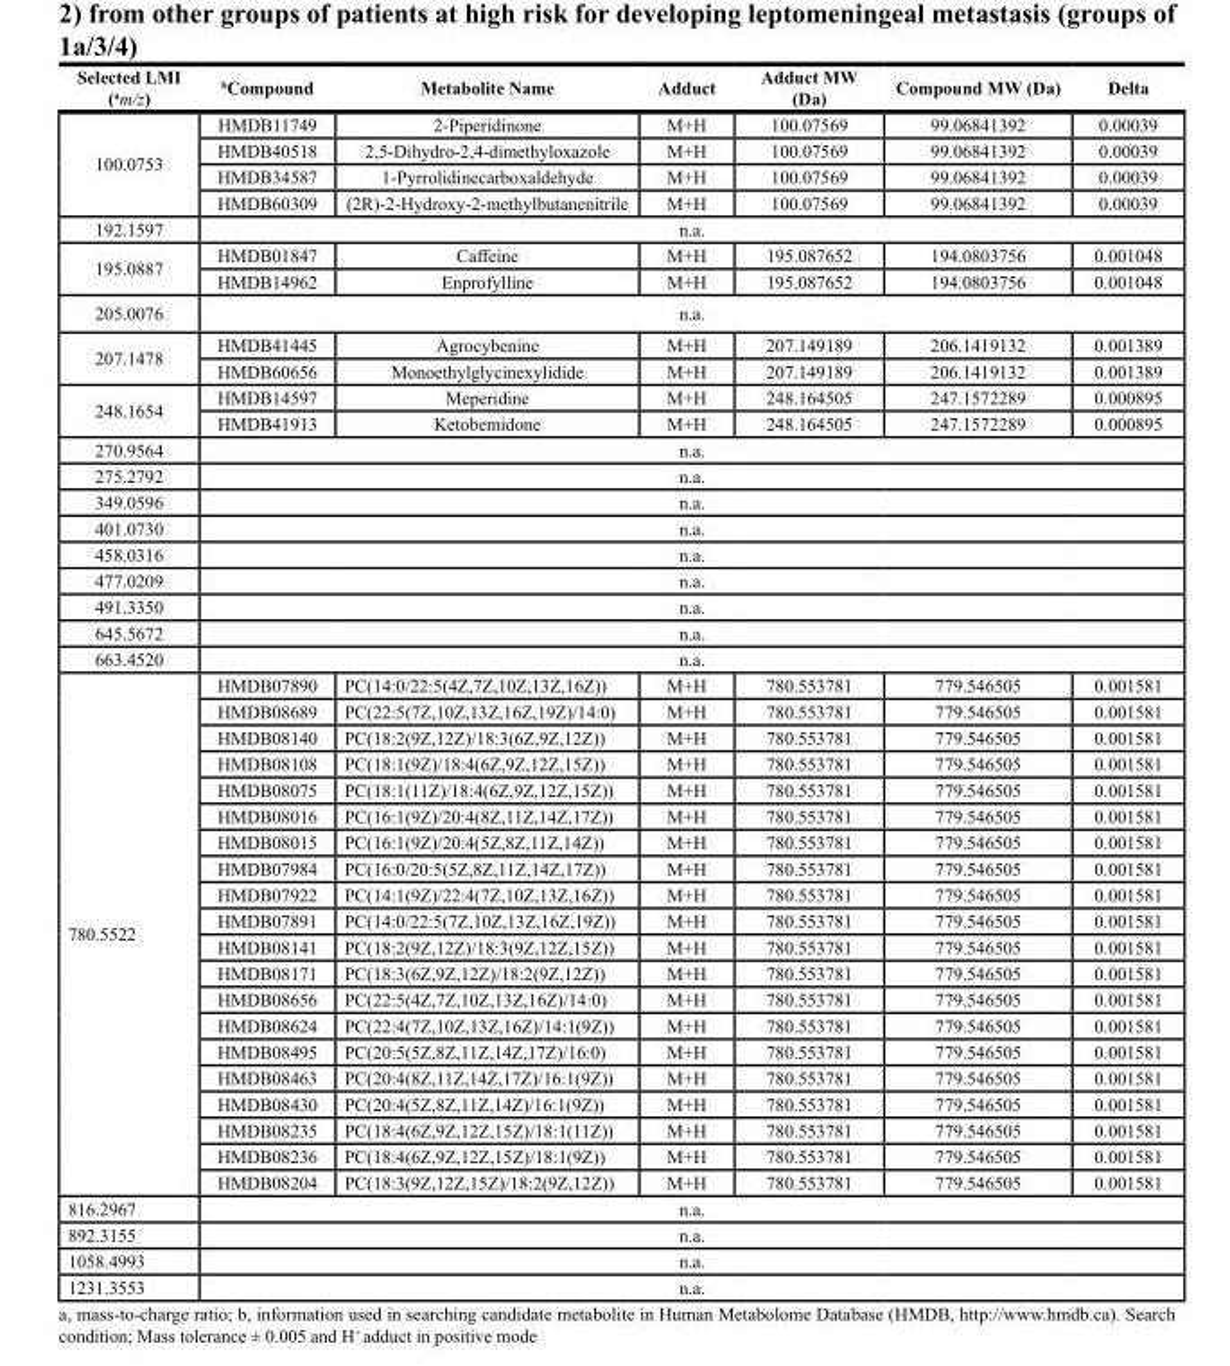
<table><thead><tr><td>Selected LMI (<sup>a</sup>m/z)</td><td><sup>b</sup>Compound</td><td>Metabolite Name</td><td>Adduct</td><td>Adduct MW (Da)</td><td>Compound MW (Da)</td><td>Delta</td></tr></thead><tbody><tr><td rowspan="4">100.0753</td><td>HMDB11749</td><td>2-Piperidinone</td><td>M+H</td><td>100.07569</td><td>99.06841392</td><td>0.00039</td></tr><tr><td>HMDB40518</td><td>2,5-Dihydro-2,4-dimethyloxazole</td><td>M+H</td><td>100.07569</td><td>99.06841392</td><td>0.00039</td></tr><tr><td>HMDB34587</td><td>1-Pyrrolidinecarboxaldehyde</td><td>M+H</td><td>100.07569</td><td>99.06841392</td><td>0.00039</td></tr><tr><td>HMDB60309</td><td>(2R)-2-Hydroxy-2-methylbutanenitrile</td><td>M+H</td><td>100.07569</td><td>99.06841392</td><td>0.00039</td></tr><tr><td>192.1597</td><td colspan="6">n.a.</td></tr><tr><td rowspan="2">195.0887</td><td>HMDB01847</td><td>Caffeine</td><td>M+H</td><td>195.087652</td><td>194.0803756</td><td>0.001048</td></tr><tr><td>HMDB14962</td><td>Enprofylline</td><td>M+H</td><td>195.087652</td><td>194.0803756</td><td>0.001048</td></tr><tr><td>205.0076</td><td colspan="6">n.a.</td></tr><tr><td rowspan="2">207.1478</td><td>HMDB41445</td><td>Agrocybenine</td><td>M+H</td><td>207.149189</td><td>206.1419132</td><td>0.001389</td></tr><tr><td>HMDB60656</td><td>Monoethylglycinexylidide</td><td>M+H</td><td>207.149189</td><td>206.1419132</td><td>0.001389</td></tr><tr><td rowspan="2">248.1654</td><td>HMDB14597</td><td>Meperidine</td><td>M+H</td><td>248.164505</td><td>247.1572289</td><td>0.000895</td></tr><tr><td>HMDB41913</td><td>Ketobemidone</td><td>M+H</td><td>248.164505</td><td>247.1572289</td><td>0.000895</td></tr><tr><td>270.9564</td><td colspan="6">n.a.</td></tr><tr><td>275.2792</td><td colspan="6">n.a.</td></tr><tr><td>349.0596</td><td colspan="6">n.a.</td></tr><tr><td>401.0730</td><td colspan="6">n.a.</td></tr><tr><td>458.0316</td><td colspan="6">n.a.</td></tr><tr><td>477.0209</td><td colspan="6">n.a.</td></tr><tr><td>491.3350</td><td colspan="6">n.a.</td></tr><tr><td>645.5672</td><td colspan="6">n.a.</td></tr><tr><td>663.4520</td><td colspan="6">n.a.</td></tr><tr><td rowspan="20">780.5522</td><td>HMDB07890</td><td>PC(14:0/22:5(4Z,7Z,10Z,13Z,16Z))</td><td>M+H</td><td>780.553781</td><td>779.546505</td><td>0.001581</td></tr><tr><td>HMDB08689</td><td>PC(22:5(7Z,10Z,13Z,16Z,19Z)/14:0)</td><td>M+H</td><td>780.553781</td><td>779.546505</td><td>0.001581</td></tr><tr><td>HMDB08140</td><td>PC(18:2(9Z,12Z)/18:3(6Z,9Z,12Z))</td><td>M+H</td><td>780.553781</td><td>779.546505</td><td>0.001581</td></tr><tr><td>HMDB08108</td><td>PC(18:1(9Z)/18:4(6Z,9Z,12Z,15Z))</td><td>M+H</td><td>780.553781</td><td>779.546505</td><td>0.001581</td></tr><tr><td>HMDB08075</td><td>PC(18:1(11Z)/18:4(6Z,9Z,12Z,15Z))</td><td>M+H</td><td>780.553781</td><td>779.546505</td><td>0.001581</td></tr><tr><td>HMDB08016</td><td>PC(16:1(9Z)/20:4(8Z,11Z,14Z,17Z))</td><td>M+H</td><td>780.553781</td><td>779.546505</td><td>0.001581</td></tr><tr><td>HMDB08015</td><td>PC(16:1(9Z)/20:4(5Z,8Z,11Z,14Z))</td><td>M+H</td><td>780.553781</td><td>779.546505</td><td>0.001581</td></tr><tr><td>HMDB07984</td><td>PC(16:0/20:5(5Z,8Z,11Z,14Z,17Z))</td><td>M+H</td><td>780.553781</td><td>779.546505</td><td>0.001581</td></tr><tr><td>HMDB07922</td><td>PC(14:1(9Z)/22:4(7Z,10Z,13Z,16Z))</td><td>M+H</td><td>780.553781</td><td>779.546505</td><td>0.001581</td></tr><tr><td>HMDB07891</td><td>PC(14:0/22:5(7Z,10Z,13Z,16Z,19Z))</td><td>M+H</td><td>780.553781</td><td>779.546505</td><td>0.001581</td></tr><tr><td>HMDB08141</td><td>PC(18:2(9Z,12Z)/18:3(9Z,12Z,15Z))</td><td>M+H</td><td>780.553781</td><td>779.546505</td><td>0.001581</td></tr><tr><td>HMDB08171</td><td>PC(18:3(6Z,9Z,12Z)/18:2(9Z,12Z))</td><td>M+H</td><td>780.553781</td><td>779.546505</td><td>0.001581</td></tr><tr><td>HMDB08656</td><td>PC(22:5(4Z,7Z,10Z,13Z,16Z)/14:0)</td><td>M+H</td><td>780.553781</td><td>779.546505</td><td>0.001581</td></tr><tr><td>HMDB08624</td><td>PC(22:4(7Z,10Z,13Z,16Z)/14:1(9Z))</td><td>M+H</td><td>780.553781</td><td>779.546505</td><td>0.001581</td></tr><tr><td>HMDB08495</td><td>PC(20:5(5Z,8Z,11Z,14Z,17Z)/16:0)</td><td>M+H</td><td>780.553781</td><td>779.546505</td><td>0.001581</td></tr><tr><td>HMDB08463</td><td>PC(20:4(8Z,11Z,14Z,17Z)/16:1(9Z))</td><td>M+H</td><td>780.553781</td><td>779.546505</td><td>0.001581</td></tr><tr><td>HMDB08430</td><td>PC(20:4(5Z,8Z,11Z,14Z)/16:1(9Z))</td><td>M+H</td><td>780.553781</td><td>779.546505</td><td>0.001581</td></tr><tr><td>HMDB08235</td><td>PC(18:4(6Z,9Z,12Z,15Z)/18:1(11Z))</td><td>M+H</td><td>780.553781</td><td>779.546505</td><td>0.001581</td></tr><tr><td>HMDB08236</td><td>PC(18:4(6Z,9Z,12Z,15Z)/18:1(9Z))</td><td>M+H</td><td>780.553781</td><td>779.546505</td><td>0.001581</td></tr><tr><td>HMDB08204</td><td>PC(18:3(9Z,12Z,15Z)/18:2(9Z,12Z))</td><td>M+H</td><td>780.553781</td><td>779.546505</td><td>0.001581</td></tr><tr><td>816.2967</td><td colspan="6">n.a.</td></tr><tr><td>892.3155</td><td colspan="6">n.a.</td></tr><tr><td>1058.4993</td><td colspan="6">n.a.</td></tr><tr><td>1231.3553</td><td colspan="6">n.a.</td></tr></tbody></table>